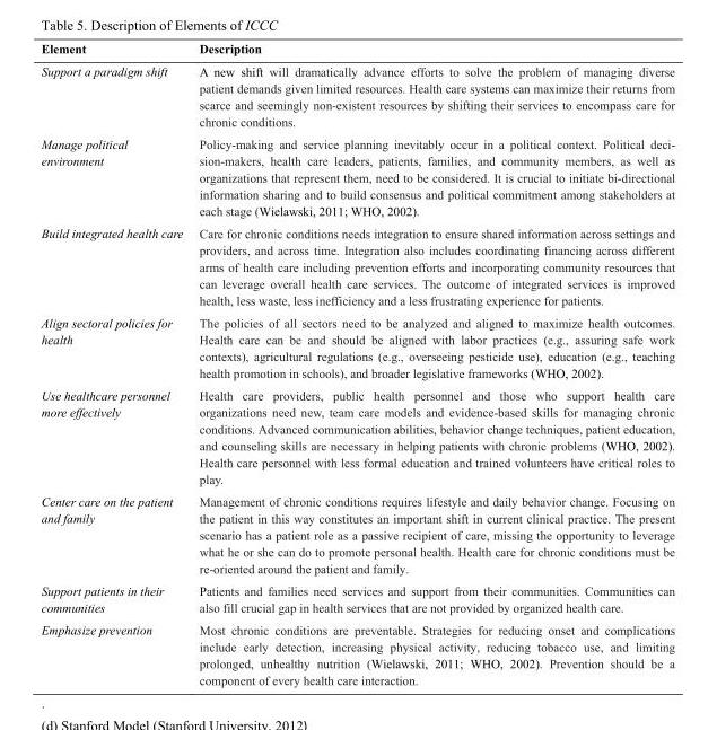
<table><thead><tr><td>Element</td><td>Description</td></tr></thead><tbody><tr><td>Support a paradigm shift</td><td>A new shift will dramatically advance efforts to solve the problem of managing diverse patient demands given limited resources. Health care systems can maximize their returns from scarce and seemingly non-existent resources by shifting their services to encompass care for chronic conditions.</td></tr><tr><td>Manage political environment</td><td>Policy-making and service planning inevitably occur in a political context. Political deci- sion-makers, health care leaders, patients, families, and community members, as well as organizations that represent them, need to be considered. It is crucial to initiate bi-directional information sharing and to build consensus and political commitment among stakeholders at each stage (Wielawski, 2011; WHO, 2002).</td></tr><tr><td>Build integrated health care</td><td>Care for chronic conditions needs integration to ensure shared information across settings and providers, and across time. Integration also includes coordinating financing across different arms of health care including prevention efforts and incorporating community resources that can leverage overall health care services. The outcome of integrated services is improved health, less waste, less inefficiency and a less frustrating experience for patients.</td></tr><tr><td>Align sectoral policies for health</td><td>The policies of all sectors need to be analyzed and aligned to maximize health outcomes. Health care can be and should be aligned with labor practices (e.g., assuring safe work contexts), agricultural regulations (e.g., overseeing pesticide use), education (e.g., teaching health promotion in schools), and broader legislative frameworks (WHO, 2002).</td></tr><tr><td>Use healthcare personnel more effectively</td><td>Health care providers, public health personnel and those who support health care organizations need new, team care models and evidence-based skills for managing chronic conditions. Advanced communication abilities, behavior change techniques, patient education, and counseling skills are necessary in helping patients with chronic problems (WHO, 2002). Health care personnel with less formal education and trained volunteers have critical roles to play.</td></tr><tr><td>Center care on the patient and family</td><td>Management of chronic conditions requires lifestyle and daily behavior change. Focusing on the patient in this way constitutes an important shift in current clinical practice. The present scenario has a patient role as a passive recipient of care, missing the opportunity to leverage what he or she can do to promote personal health. Health care for chronic conditions must be re-oriented around the patient and family.</td></tr><tr><td>Support patients in their communities</td><td>Patients and families need services and support from their communities. Communities can also fill crucial gap in health services that are not provided by organized health care.</td></tr><tr><td>Emphasize prevention</td><td>Most chronic conditions are preventable. Strategies for reducing onset and complications include early detection, increasing physical activity, reducing tobacco use, and limiting prolonged, unhealthy nutrition (Wielawski, 2011; WHO, 2002). Prevention should be a component of every health care interaction.</td></tr></tbody></table>